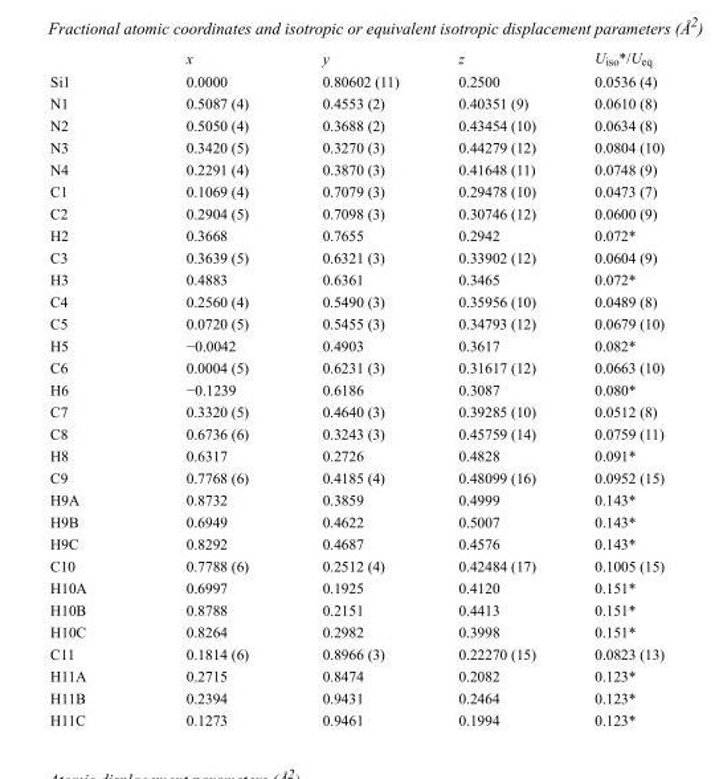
<table><thead><tr><td></td><td>x</td><td>y</td><td>z</td><td>U<sub>iso</sub>*/U<sub>eq</sub></td></tr></thead><tbody><tr><td>Si1</td><td>0.0000</td><td>0.80602 (11)</td><td>0.2500</td><td>0.0536 (4)</td></tr><tr><td>N1</td><td>0.5087 (4)</td><td>0.4553 (2)</td><td>0.40351 (9)</td><td>0.0610 (8)</td></tr><tr><td>N2</td><td>0.5050 (4)</td><td>0.3688 (2)</td><td>0.43454 (10)</td><td>0.0634 (8)</td></tr><tr><td>N3</td><td>0.3420 (5)</td><td>0.3270 (3)</td><td>0.44279 (12)</td><td>0.0804 (10)</td></tr><tr><td>N4</td><td>0.2291 (4)</td><td>0.3870 (3)</td><td>0.41648 (11)</td><td>0.0748 (9)</td></tr><tr><td>C1</td><td>0.1069 (4)</td><td>0.7079 (3)</td><td>0.29478 (10)</td><td>0.0473 (7)</td></tr><tr><td>C2</td><td>0.2904 (5)</td><td>0.7098 (3)</td><td>0.30746 (12)</td><td>0.0600 (9)</td></tr><tr><td>H2</td><td>0.3668</td><td>0.7655</td><td>0.2942</td><td>0.072*</td></tr><tr><td>C3</td><td>0.3639 (5)</td><td>0.6321 (3)</td><td>0.33902 (12)</td><td>0.0604 (9)</td></tr><tr><td>H3</td><td>0.4883</td><td>0.6361</td><td>0.3465</td><td>0.072*</td></tr><tr><td>C4</td><td>0.2560 (4)</td><td>0.5490 (3)</td><td>0.35956 (10)</td><td>0.0489 (8)</td></tr><tr><td>C5</td><td>0.0720 (5)</td><td>0.5455 (3)</td><td>0.34793 (12)</td><td>0.0679 (10)</td></tr><tr><td>H5</td><td>−0.0042</td><td>0.4903</td><td>0.3617</td><td>0.082*</td></tr><tr><td>C6</td><td>0.0004 (5)</td><td>0.6231 (3)</td><td>0.31617 (12)</td><td>0.0663 (10)</td></tr><tr><td>H6</td><td>−0.1239</td><td>0.6186</td><td>0.3087</td><td>0.080*</td></tr><tr><td>C7</td><td>0.3320 (5)</td><td>0.4640 (3)</td><td>0.39285 (10)</td><td>0.0512 (8)</td></tr><tr><td>C8</td><td>0.6736 (6)</td><td>0.3243 (3)</td><td>0.45759 (14)</td><td>0.0759 (11)</td></tr><tr><td>H8</td><td>0.6317</td><td>0.2726</td><td>0.4828</td><td>0.091*</td></tr><tr><td>C9</td><td>0.7768 (6)</td><td>0.4185 (4)</td><td>0.48099 (16)</td><td>0.0952 (15)</td></tr><tr><td>H9A</td><td>0.8732</td><td>0.3859</td><td>0.4999</td><td>0.143*</td></tr><tr><td>H9B</td><td>0.6949</td><td>0.4622</td><td>0.5007</td><td>0.143*</td></tr><tr><td>H9C</td><td>0.8292</td><td>0.4687</td><td>0.4576</td><td>0.143*</td></tr><tr><td>C10</td><td>0.7788 (6)</td><td>0.2512 (4)</td><td>0.42484 (17)</td><td>0.1005 (15)</td></tr><tr><td>H10A</td><td>0.6997</td><td>0.1925</td><td>0.4120</td><td>0.151*</td></tr><tr><td>H10B</td><td>0.8788</td><td>0.2151</td><td>0.4413</td><td>0.151*</td></tr><tr><td>H10C</td><td>0.8264</td><td>0.2982</td><td>0.3998</td><td>0.151*</td></tr><tr><td>C11</td><td>0.1814 (6)</td><td>0.8966 (3)</td><td>0.22270 (15)</td><td>0.0823 (13)</td></tr><tr><td>H11A</td><td>0.2715</td><td>0.8474</td><td>0.2082</td><td>0.123*</td></tr><tr><td>H11B</td><td>0.2394</td><td>0.9431</td><td>0.2464</td><td>0.123*</td></tr><tr><td>H11C</td><td>0.1273</td><td>0.9461</td><td>0.1994</td><td>0.123*</td></tr></tbody></table>